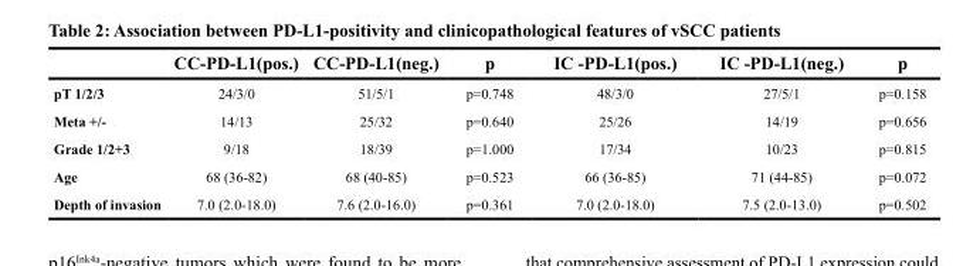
<table><thead><tr><td></td><td>CC-PD-L1(pos.)</td><td>CC-PD-L1(neg.)</td><td>p</td><td>IC -PD-L1(pos.)</td><td>IC -PD-L1(neg.)</td><td>p</td></tr></thead><tbody><tr><td>pT 1/2/3</td><td>24/3/0</td><td>51/5/1</td><td>p=0.748</td><td>48/3/0</td><td>27/5/1</td><td>p=0.158</td></tr><tr><td>Meta +/-</td><td>14/13</td><td>25/32</td><td>p=0.640</td><td>25/26</td><td>14/19</td><td>p=0.656</td></tr><tr><td>Grade 1/2+3</td><td>9/18</td><td>18/39</td><td>p=1.000</td><td>17/34</td><td>10/23</td><td>p=0.815</td></tr><tr><td>Age</td><td>68 (36-82)</td><td>68 (40-85)</td><td>p=0.523</td><td>66 (36-85)</td><td>71 (44-85)</td><td>p=0.072</td></tr><tr><td>Depth of invasion</td><td>7.0 (2.0-18.0)</td><td>7.6 (2.0-16.0)</td><td>p=0.361</td><td>7.0 (2.0-18.0)</td><td>7.5 (2.0-13.0)</td><td>p=0.502</td></tr></tbody></table>